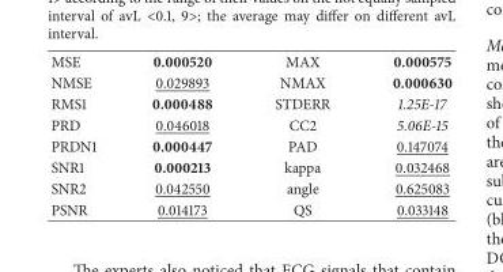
<table><tbody><tr><td>MSE</td><td>0.000520</td><td>MAX</td><td>0.000575</td></tr><tr><td>NMSE</td><td>0.029893</td><td>NMAX</td><td>0.000630</td></tr><tr><td>RMS1</td><td>0.000488</td><td>STDERR</td><td>1.25E-17</td></tr><tr><td>PRD</td><td>0.046018</td><td>CC2</td><td>5.06E-15</td></tr><tr><td>PRDN1</td><td>0.000447</td><td>PAD</td><td>0.147074</td></tr><tr><td>SNR1</td><td>0.000213</td><td>kappa</td><td>0.032468</td></tr><tr><td>SNR2</td><td>0.042550</td><td>angle</td><td>0.625083</td></tr><tr><td>PSNR</td><td>0.014173</td><td>QS</td><td>0.033148</td></tr></tbody></table>